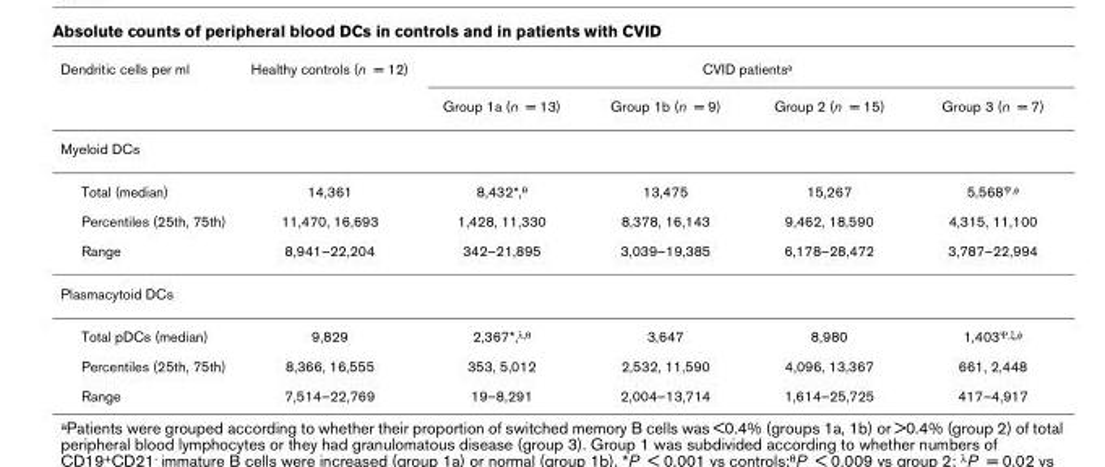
<table><thead><tr><td rowspan="2">Dendritic cells per ml</td><td rowspan="2">Healthy controls (n = 12)</td><td colspan="4">CVID patientsa</td></tr><tr><td>Group 1a (n = 13)</td><td>Group 1b (n = 9)</td><td>Group 2 (n = 15)</td><td>Group 3 (n = 7)</td></tr></thead><tbody><tr><td colspan="6">Myeloid DCs</td></tr><tr><td>Total (median)</td><td>14,361</td><td>8,432*,θ</td><td>13,475</td><td>15,267</td><td>5,568Ψ,φ</td></tr><tr><td>Percentiles (25th, 75th)</td><td>11,470, 16,693</td><td>1,428, 11,330</td><td>8,378, 16,143</td><td>9,462, 18,590</td><td>4,315, 11,100</td></tr><tr><td>Range</td><td>8,941–22,204</td><td>342–21,895</td><td>3,039–19,385</td><td>6,178–28,472</td><td>3,787–22,994</td></tr><tr><td colspan="6">Plasmacytoid DCs</td></tr><tr><td>Total pDCs (median)</td><td>9,829</td><td>2,367*,λ,θ</td><td>3,647</td><td>8,980</td><td>1,403Ψ,ξ,φ</td></tr><tr><td>Percentiles (25th, 75th)</td><td>8,366, 16,555</td><td>353, 5,012</td><td>2,532, 11,590</td><td>4,096, 13,367</td><td>661, 2,448</td></tr><tr><td>Range</td><td>7,514–22,769</td><td>19–8,291</td><td>2,004–13,714</td><td>1,614–25,725</td><td>417–4,917</td></tr></tbody></table>